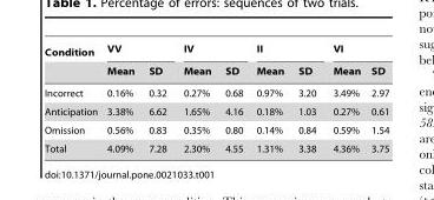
<table><thead><tr><td rowspan="2">Condition</td><td colspan="2">VV</td><td colspan="2">IV</td><td colspan="2">II</td><td colspan="2">VI</td></tr><tr><td>Mean</td><td>SD</td><td>Mean</td><td>SD</td><td>Mean</td><td>SD</td><td>Mean</td><td>SD</td></tr></thead><tbody><tr><td>Incorrect</td><td>0.16%</td><td>0.32</td><td>0.27%</td><td>0.68</td><td>0.97%</td><td>3.20</td><td>3.49%</td><td>2.97</td></tr><tr><td>Anticipation</td><td>3.38%</td><td>6.62</td><td>1.65%</td><td>4.16</td><td>0.18%</td><td>1.03</td><td>0.27%</td><td>0.61</td></tr><tr><td>Omission</td><td>0.56%</td><td>0.83</td><td>0.35%</td><td>0.80</td><td>0.14%</td><td>0.84</td><td>0.59%</td><td>1.54</td></tr><tr><td>Total</td><td>4.09%</td><td>7.28</td><td>2.30%</td><td>4.55</td><td>1.31%</td><td>3.38</td><td>4.36%</td><td>3.75</td></tr></tbody></table>